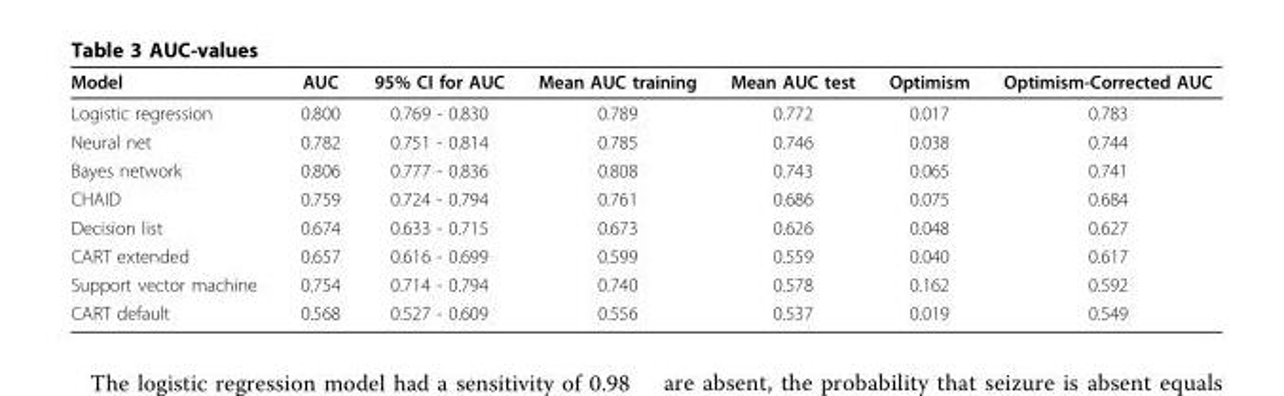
<table><thead><tr><td>Model</td><td>AUC</td><td>95% CI for AUC</td><td>Mean AUC training</td><td>Mean AUC test</td><td>Optimism</td><td>Optimism-Corrected AUC</td></tr></thead><tbody><tr><td>Logistic regression</td><td>0.800</td><td>0.769 - 0.830</td><td>0.789</td><td>0.772</td><td>0.017</td><td>0.783</td></tr><tr><td>Neural net</td><td>0.782</td><td>0.751 - 0.814</td><td>0.785</td><td>0.746</td><td>0.038</td><td>0.744</td></tr><tr><td>Bayes network</td><td>0.806</td><td>0.777 - 0.836</td><td>0.808</td><td>0.743</td><td>0.065</td><td>0.741</td></tr><tr><td>CHAID</td><td>0.759</td><td>0.724 - 0.794</td><td>0.761</td><td>0.686</td><td>0.075</td><td>0.684</td></tr><tr><td>Decision list</td><td>0.674</td><td>0.633 - 0.715</td><td>0.673</td><td>0.626</td><td>0.048</td><td>0.627</td></tr><tr><td>CART extended</td><td>0.657</td><td>0.616 - 0.699</td><td>0.599</td><td>0.559</td><td>0.040</td><td>0.617</td></tr><tr><td>Support vector machine</td><td>0.754</td><td>0.714 - 0.794</td><td>0.740</td><td>0.578</td><td>0.162</td><td>0.592</td></tr><tr><td>CART default</td><td>0.568</td><td>0.527 - 0.609</td><td>0.556</td><td>0.537</td><td>0.019</td><td>0.549</td></tr></tbody></table>